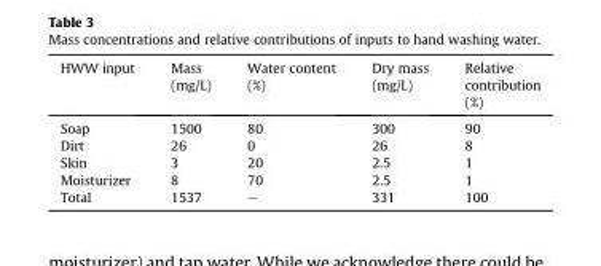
<table><thead><tr><td>HWW input</td><td>Mass (mg/L)</td><td>Water content (%)</td><td>Dry mass (mg/L)</td><td>Relative contribution (%)</td></tr></thead><tbody><tr><td>Soap</td><td>1500</td><td>80</td><td>300</td><td>90</td></tr><tr><td>Dirt</td><td>26</td><td>0</td><td>26</td><td>8</td></tr><tr><td>Skin</td><td>3</td><td>20</td><td>2.5</td><td>1</td></tr><tr><td>Moisturizer</td><td>8</td><td>70</td><td>2.5</td><td>1</td></tr><tr><td>Total</td><td>1537</td><td>–</td><td>331</td><td>100</td></tr></tbody></table>